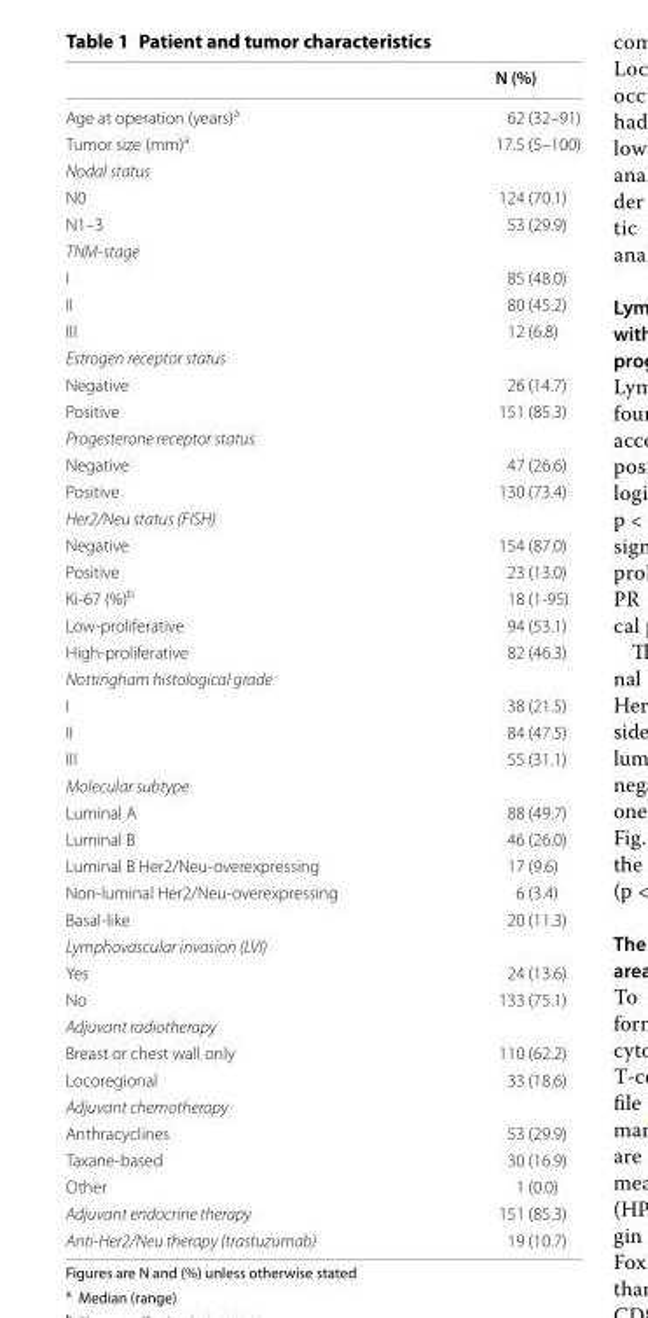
<table><thead><tr><td></td><td>N (%)</td></tr></thead><tbody><tr><td>Age at operation (years)<sup>a</sup></td><td>62 (32–91)</td></tr><tr><td>Tumor size (mm)<sup>a</sup></td><td>17.5 (5–100)</td></tr><tr><td colspan="2">Nodal status</td></tr><tr><td>N0</td><td>124 (70.1)</td></tr><tr><td>N1–3</td><td>53 (29.9)</td></tr><tr><td colspan="2">TNM-stage</td></tr><tr><td>I</td><td>85 (48.0)</td></tr><tr><td>II</td><td>80 (45.2)</td></tr><tr><td>III</td><td>12 (6.8)</td></tr><tr><td colspan="2">Estrogen receptor status</td></tr><tr><td>Negative</td><td>26 (14.7)</td></tr><tr><td>Positive</td><td>151 (85.3)</td></tr><tr><td colspan="2">Progesterone receptor status</td></tr><tr><td>Negative</td><td>47 (26.6)</td></tr><tr><td>Positive</td><td>130 (73.4)</td></tr><tr><td colspan="2">Her2/Neu status (FISH)</td></tr><tr><td>Negative</td><td>154 (87.0)</td></tr><tr><td>Positive</td><td>23 (13.0)</td></tr><tr><td>Ki‑67 (%)<sup>b</sup></td><td>18 (1‑95)</td></tr><tr><td>Low‑proliferative</td><td>94 (53.1)</td></tr><tr><td>High‑proliferative</td><td>82 (46.3)</td></tr><tr><td colspan="2">Nottingham histological grade</td></tr><tr><td>I</td><td>38 (21.5)</td></tr><tr><td>II</td><td>84 (47.5)</td></tr><tr><td>III</td><td>55 (31.1)</td></tr><tr><td colspan="2">Molecular subtype</td></tr><tr><td>Luminal A</td><td>88 (49.7)</td></tr><tr><td>Luminal B</td><td>46 (26.0)</td></tr><tr><td>Luminal B Her2/Neu‑overexpressing</td><td>17 (9.6)</td></tr><tr><td>Non‑luminal Her2/Neu‑overexpressing</td><td>6 (3.4)</td></tr><tr><td>Basal‑like</td><td>20 (11.3)</td></tr><tr><td colspan="2">Lymphovascular invasion (LVI)</td></tr><tr><td>Yes</td><td>24 (13.6)</td></tr><tr><td>No</td><td>133 (75.1)</td></tr><tr><td colspan="2">Adjuvant radiotherapy</td></tr><tr><td>Breast or chest wall only</td><td>110 (62.2)</td></tr><tr><td>Locoregional</td><td>33 (18.6)</td></tr><tr><td colspan="2">Adjuvant chemotherapy</td></tr><tr><td>Anthracyclines</td><td>53 (29.9)</td></tr><tr><td>Taxane‑based</td><td>30 (16.9)</td></tr><tr><td>Other</td><td>1 (0.0)</td></tr><tr><td>Adjuvant endocrine therapy</td><td>151 (85.3)</td></tr><tr><td>Anti-Her2/Neu therapy (trastuzumab)</td><td>19 (10.7)</td></tr></tbody></table>